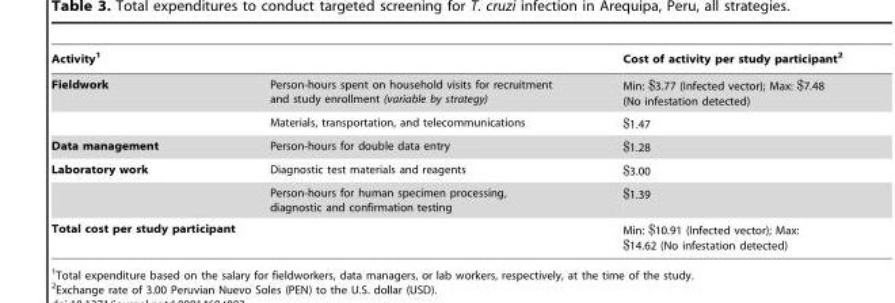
<table><thead><tr><td colspan="2">Activity<sup>1</sup></td><td rowspan="2">Cost of activity per study participant<sup>2</sup> Min: $3.77 (Infected vector); Max: $7.48 (No infestation detected)</td></tr><tr><td>Fieldwork</td><td>Person-hours spent on household visits for recruitment and study enrollment (variable by strategy)</td></tr></thead><tbody><tr><td></td><td>Materials, transportation, and telecommunications</td><td>$1.47</td></tr><tr><td>Data management</td><td>Person-hours for double data entry</td><td>$1.28</td></tr><tr><td rowspan="2">Laboratory work</td><td>Diagnostic test materials and reagents</td><td>$3.00</td></tr><tr><td>Person-hours for human specimen processing, diagnostic and confirmation testing</td><td>$1.39</td></tr><tr><td colspan="2">Total cost per study participant</td><td>Min: $10.91 (Infected vector); Max: $14.62 (No infestation detected)</td></tr></tbody></table>